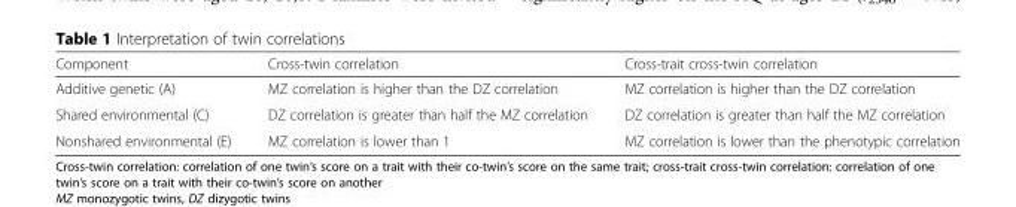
<table><thead><tr><td>Component</td><td>Cross-twin correlation</td><td>Cross-trait cross-twin correlation</td></tr></thead><tbody><tr><td>Additive genetic (A)</td><td>MZ correlation is higher than the DZ correlation</td><td>MZ correlation is higher than the DZ correlation</td></tr><tr><td>Shared environmental (C)</td><td>DZ correlation is greater than half the MZ correlation</td><td>DZ correlation is greater than half the MZ correlation</td></tr><tr><td>Nonshared environmental (E)</td><td>MZ correlation is lower than 1</td><td>MZ correlation is lower than the phenotypic correlation</td></tr></tbody></table>